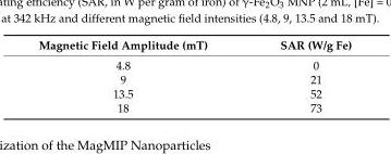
<table><thead><tr><td>Magnetic Field Amplitude (mT)</td><td>SAR (W/g Fe)</td></tr></thead><tbody><tr><td>4.8</td><td>0</td></tr><tr><td>9</td><td>21</td></tr><tr><td>13.5</td><td>52</td></tr><tr><td>18</td><td>73</td></tr></tbody></table>